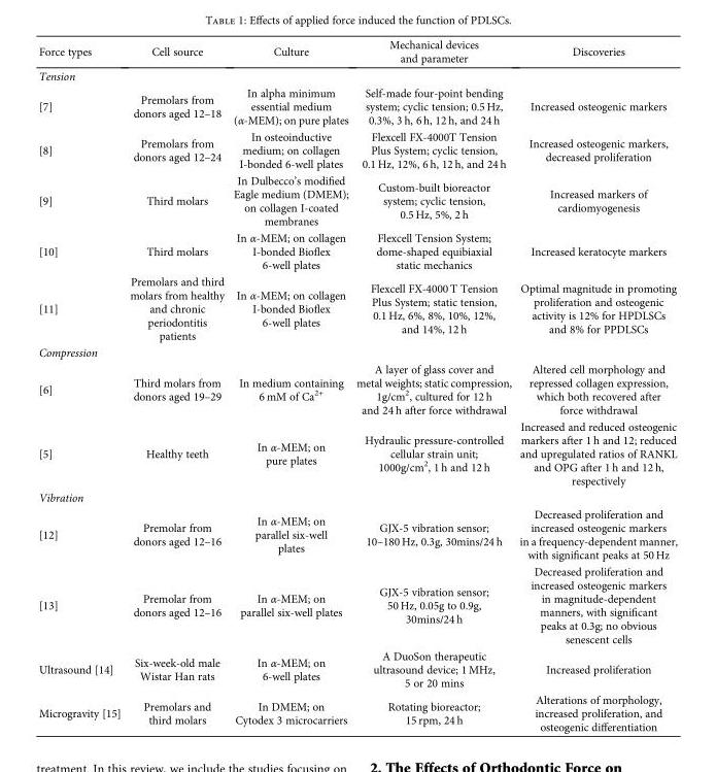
<table><thead><tr><td>Force types</td><td>Cell source</td><td>Culture</td><td>Mechanical devices and parameter</td><td>Discoveries</td></tr></thead><tbody><tr><td colspan="5">Tension</td></tr><tr><td>[7]</td><td>Premolars from donors aged 12–18</td><td>In alpha minimum essential medium (α-MEM); on pure plates</td><td>Self-made four-point bending system; cyclic tension; 0.5 Hz, 0.3%, 3 h, 6 h, 12 h, and 24 h</td><td>Increased osteogenic markers</td></tr><tr><td>[8]</td><td>Premolars from donors aged 12–24</td><td>In osteoinductive medium; on collagen I-bonded 6-well plates</td><td>Flexcell FX-4000T Tension Plus System; cyclic tension, 0.1 Hz, 12%, 6 h, 12 h, and 24 h</td><td>Increased osteogenic markers, decreased proliferation</td></tr><tr><td>[9]</td><td>Third molars</td><td>In Dulbecco’s modified Eagle medium (DMEM); on collagen I-coated membranes</td><td>Custom-built bioreactor system; cyclic tension, 0.5 Hz, 5%, 2 h</td><td>Increased markers of cardiomyogenesis</td></tr><tr><td>[10]</td><td>Third molars</td><td>In α-MEM; on collagen I-bonded Bioflex 6-well plates</td><td>Flexcell Tension System; dome-shaped equibiaxial static mechanics</td><td>Increased keratocyte markers</td></tr><tr><td>[11]</td><td>Premolars and third molars from healthy and chronic periodontitis patients</td><td>In α-MEM; on collagen I-bonded Bioflex 6-well plates</td><td>Flexcell FX-4000 T Tension Plus System; static tension, 0.1 Hz, 6%, 8%, 10%, 12%, and 14%, 12 h</td><td>Optimal magnitude in promoting proliferation and osteogenic activity is 12% for HPDLSCs and 8% for PPDLSCs</td></tr><tr><td colspan="5">Compression</td></tr><tr><td>[6]</td><td>Third molars from donors aged 19–29</td><td>In medium containing 6 mM of Ca<sup>2+</sup></td><td>A layer of glass cover and metal weights; static compression, 1g/cm<sup>2</sup>, cultured for 12 h and 24 h after force withdrawal</td><td>Altered cell morphology and repressed collagen expression, which both recovered after force withdrawal</td></tr><tr><td>[5]</td><td>Healthy teeth</td><td>In α-MEM; on pure plates</td><td>Hydraulic pressure-controlled cellular strain unit; 1000g/cm<sup>2</sup>, 1 h and 12 h</td><td>Increased and reduced osteogenic markers after 1 h and 12; reduced and upregulated ratios of RANKL and OPG after 1 h and 12 h, respectively</td></tr><tr><td colspan="5">Vibration</td></tr><tr><td>[12]</td><td>Premolar from donors aged 12–16</td><td>In α-MEM; on parallel six-well plates</td><td>GJX-5 vibration sensor; 10–180 Hz, 0.3g, 30mins/24 h</td><td>Decreased proliferation and increased osteogenic markers in a frequency-dependent manner, with significant peaks at 50 Hz</td></tr><tr><td>[13]</td><td>Premolar from donors aged 12–16</td><td>In α-MEM; on parallel six-well plates</td><td>GJX-5 vibration sensor; 50 Hz, 0.05g to 0.9g, 30mins/24 h</td><td>Decreased proliferation and increased osteogenic markers in magnitude-dependent manners, with significant peaks at 0.3g; no obvious senescent cells</td></tr><tr><td>Ultrasound [14]</td><td>Six-week-old male Wistar Han rats</td><td>In α-MEM; on 6-well plates</td><td>A DuoSon therapeutic ultrasound device; 1 MHz, 5 or 20 mins</td><td>Increased proliferation</td></tr><tr><td>Microgravity [15]</td><td>Premolars and third molars</td><td>In DMEM; on Cytodex 3 microcarriers</td><td>Rotating bioreactor; 15 rpm, 24 h</td><td>Alterations of morphology, increased proliferation, and osteogenic differentiation</td></tr></tbody></table>